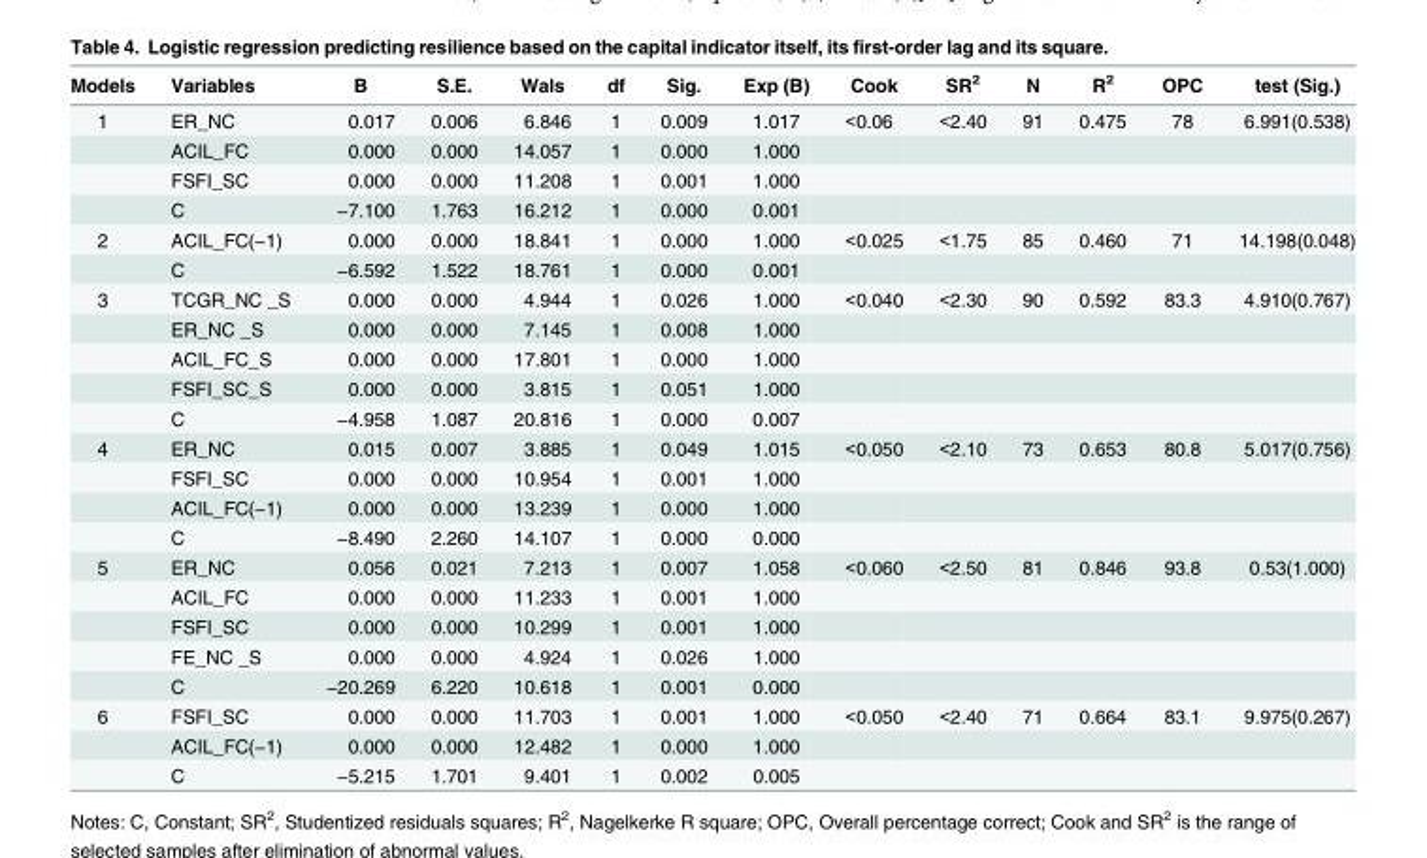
<table><thead><tr><td>Models</td><td>Variables</td><td>B</td><td>S.E.</td><td>Wals</td><td>df</td><td>Sig.</td><td>Exp (B)</td><td>Cook</td><td>SR2</td><td>N</td><td>R2</td><td>OPC</td><td>test (Sig.)</td></tr></thead><tbody><tr><td rowspan="4">1</td><td>ER_NC</td><td>0.017</td><td>0.006</td><td>6.846</td><td>1</td><td>0.009</td><td>1.017</td><td>&lt;0.06</td><td>&lt;2.40</td><td>91</td><td>0.475</td><td>78</td><td>6.991(0.538)</td></tr><tr><td>ACIL_FC</td><td>0.000</td><td>0.000</td><td>14.057</td><td>1</td><td>0.000</td><td>1.000</td><td></td><td></td><td></td><td></td><td></td><td></td></tr><tr><td>FSFI_SC</td><td>0.000</td><td>0.000</td><td>11.208</td><td>1</td><td>0.001</td><td>1.000</td><td></td><td></td><td></td><td></td><td></td><td></td></tr><tr><td>C</td><td>−7.100</td><td>1.763</td><td>16.212</td><td>1</td><td>0.000</td><td>0.001</td><td></td><td></td><td></td><td></td><td></td><td></td></tr><tr><td rowspan="2">2</td><td>ACIL_FC(−1)</td><td>0.000</td><td>0.000</td><td>18.841</td><td>1</td><td>0.000</td><td>1.000</td><td>&lt;0.025</td><td>&lt;1.75</td><td>85</td><td>0.460</td><td>71</td><td>14.198(0.048)</td></tr><tr><td>C</td><td>−6.592</td><td>1.522</td><td>18.761</td><td>1</td><td>0.000</td><td>0.001</td><td></td><td></td><td></td><td></td><td></td><td></td></tr><tr><td rowspan="5">3</td><td>TCGR_NC _S</td><td>0.000</td><td>0.000</td><td>4.944</td><td>1</td><td>0.026</td><td>1.000</td><td>&lt;0.040</td><td>&lt;2.30</td><td>90</td><td>0.592</td><td>83.3</td><td>4.910(0.767)</td></tr><tr><td>ER_NC _S</td><td>0.000</td><td>0.000</td><td>7.145</td><td>1</td><td>0.008</td><td>1.000</td><td></td><td></td><td></td><td></td><td></td><td></td></tr><tr><td>ACIL_FC_S</td><td>0.000</td><td>0.000</td><td>17.801</td><td>1</td><td>0.000</td><td>1.000</td><td></td><td></td><td></td><td></td><td></td><td></td></tr><tr><td>FSFI_SC_S</td><td>0.000</td><td>0.000</td><td>3.815</td><td>1</td><td>0.051</td><td>1.000</td><td></td><td></td><td></td><td></td><td></td><td></td></tr><tr><td>C</td><td>−4.958</td><td>1.087</td><td>20.816</td><td>1</td><td>0.000</td><td>0.007</td><td></td><td></td><td></td><td></td><td></td><td></td></tr><tr><td rowspan="4">4</td><td>ER_NC</td><td>0.015</td><td>0.007</td><td>3.885</td><td>1</td><td>0.049</td><td>1.015</td><td>&lt;0.050</td><td>&lt;2.10</td><td>73</td><td>0.653</td><td>80.8</td><td>5.017(0.756)</td></tr><tr><td>FSFI_SC</td><td>0.000</td><td>0.000</td><td>10.954</td><td>1</td><td>0.001</td><td>1.000</td><td></td><td></td><td></td><td></td><td></td><td></td></tr><tr><td>ACIL_FC(−1)</td><td>0.000</td><td>0.000</td><td>13.239</td><td>1</td><td>0.000</td><td>1.000</td><td></td><td></td><td></td><td></td><td></td><td></td></tr><tr><td>C</td><td>−8.490</td><td>2.260</td><td>14.107</td><td>1</td><td>0.000</td><td>0.000</td><td></td><td></td><td></td><td></td><td></td><td></td></tr><tr><td rowspan="5">5</td><td>ER_NC</td><td>0.056</td><td>0.021</td><td>7.213</td><td>1</td><td>0.007</td><td>1.058</td><td>&lt;0.060</td><td>&lt;2.50</td><td>81</td><td>0.846</td><td>93.8</td><td>0.53(1.000)</td></tr><tr><td>ACIL_FC</td><td>0.000</td><td>0.000</td><td>11.233</td><td>1</td><td>0.001</td><td>1.000</td><td></td><td></td><td></td><td></td><td></td><td></td></tr><tr><td>FSFI_SC</td><td>0.000</td><td>0.000</td><td>10.299</td><td>1</td><td>0.001</td><td>1.000</td><td></td><td></td><td></td><td></td><td></td><td></td></tr><tr><td>FE_NC _S</td><td>0.000</td><td>0.000</td><td>4.924</td><td>1</td><td>0.026</td><td>1.000</td><td></td><td></td><td></td><td></td><td></td><td></td></tr><tr><td>C</td><td>−20.269</td><td>6.220</td><td>10.618</td><td>1</td><td>0.001</td><td>0.000</td><td></td><td></td><td></td><td></td><td></td><td></td></tr><tr><td rowspan="3">6</td><td>FSFI_SC</td><td>0.000</td><td>0.000</td><td>11.703</td><td>1</td><td>0.001</td><td>1.000</td><td>&lt;0.050</td><td>&lt;2.40</td><td>71</td><td>0.664</td><td>83.1</td><td>9.975(0.267)</td></tr><tr><td>ACIL_FC(−1)</td><td>0.000</td><td>0.000</td><td>12.482</td><td>1</td><td>0.000</td><td>1.000</td><td></td><td></td><td></td><td></td><td></td><td></td></tr><tr><td>C</td><td>−5.215</td><td>1.701</td><td>9.401</td><td>1</td><td>0.002</td><td>0.005</td><td></td><td></td><td></td><td></td><td></td><td></td></tr></tbody></table>